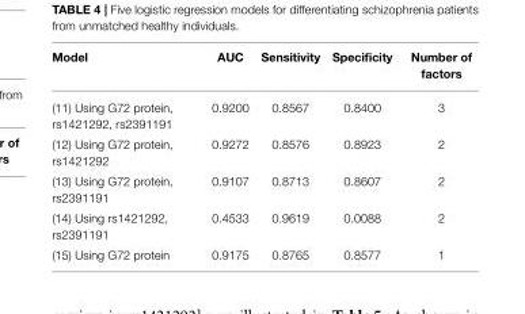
<table><thead><tr><td>Model</td><td>AUC</td><td>Sensitivity</td><td>Specificity</td><td>Number of factors</td></tr></thead><tbody><tr><td>(11) Using G72 protein, rs1421292, rs2391191</td><td>0.9200</td><td>0.8567</td><td>0.8400</td><td>3</td></tr><tr><td>(12) Using G72 protein, rs1421292</td><td>0.9272</td><td>0.8576</td><td>0.8923</td><td>2</td></tr><tr><td>(13) Using G72 protein, rs2391191</td><td>0.9107</td><td>0.8713</td><td>0.8607</td><td>2</td></tr><tr><td>(14) Using rs1421292, rs2391191</td><td>0.4533</td><td>0.9619</td><td>0.0088</td><td>2</td></tr><tr><td>(15) Using G72 protein</td><td>0.9175</td><td>0.8765</td><td>0.8577</td><td>1</td></tr></tbody></table>